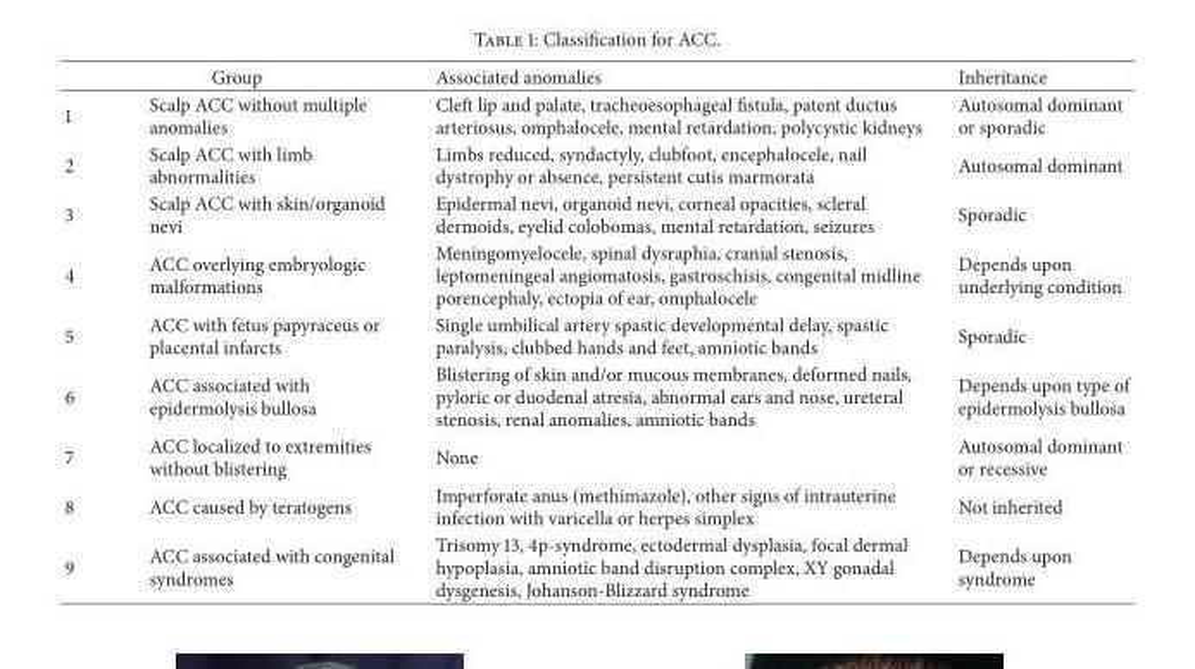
<table><thead><tr><td colspan="2">Group</td><td rowspan="2">Associated anomalies Cleft lip and palate, tracheoesophageal fistula, patent ductus arteriosus, omphalocele, mental retardation, polycystic kidneys</td><td rowspan="2">Inheritance Autosomal dominant or sporadic</td></tr><tr><td>1</td><td>Scalp ACC without multiple anomalies</td></tr></thead><tbody><tr><td>2</td><td>Scalp ACC with limb abnormalities</td><td>Limbs reduced, syndactyly, clubfoot, encephalocele, nail dystrophy or absence, persistent cutis marmorata</td><td>Autosomal dominant</td></tr><tr><td>3</td><td>Scalp ACC with skin/organoid nevi</td><td>Epidermal nevi, organoid nevi, corneal opacities, scleral dermoids, eyelid colobomas, mental retardation, seizures</td><td>Sporadic</td></tr><tr><td>4</td><td>ACC overlying embryologic malformations</td><td>Meningomyelocele, spinal dysraphia, cranial stenosis, leptomeningeal angiomatosis, gastroschisis, congenital midline porencephaly, ectopia of ear, omphalocele</td><td>Depends upon underlying condition</td></tr><tr><td>5</td><td>ACC with fetus papyraceus or placental infarcts</td><td>Single umbilical artery spastic developmental delay, spastic paralysis, clubbed hands and feet, amniotic bands</td><td>Sporadic</td></tr><tr><td>6</td><td>ACC associated with epidermolysis bullosa</td><td>Blistering of skin and/or mucous membranes, deformed nails, pyloric or duodenal atresia, abnormal ears and nose, ureteral stenosis, renal anomalies, amniotic bands</td><td>Depends upon type of epidermolysis bullosa</td></tr><tr><td>7</td><td>ACC localized to extremities without blistering</td><td>None</td><td>Autosomal dominant or recessive</td></tr><tr><td>8</td><td>ACC caused by teratogens</td><td>Imperforate anus (methimazole), other signs of intrauterine infection with varicella or herpes simplex</td><td>Not inherited</td></tr><tr><td>9</td><td>ACC associated with congenital syndromes</td><td>Trisomy 13, 4p-syndrome, ectodermal dysplasia, focal dermal hypoplasia, amniotic band disruption complex, XY gonadal dysgenesis, Johanson-Blizzard syndrome</td><td>Depends upon syndrome</td></tr></tbody></table>